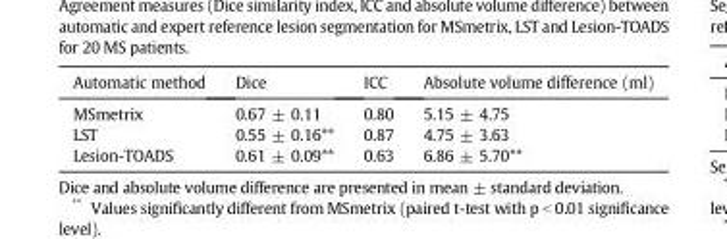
<table><thead><tr><td>Automatic method</td><td>Dice</td><td>ICC</td><td>Absolute volume difference (ml)</td></tr></thead><tbody><tr><td>MSmetrix</td><td>0.67 ± 0.11</td><td>0.80</td><td>5.15 ± 4.75</td></tr><tr><td>LST</td><td>0.55 ± 0.16**</td><td>0.87</td><td>4.75 ± 3.63</td></tr><tr><td>Lesion-TOADS</td><td>0.61 ± 0.09**</td><td>0.63</td><td>6.86 ± 5.70**</td></tr></tbody></table>